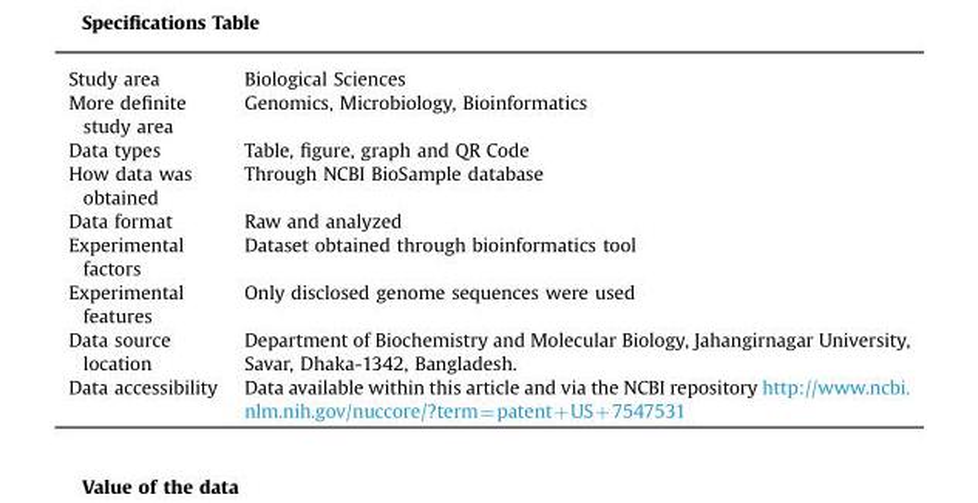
<table><tbody><tr><td>Study area</td><td>Biological Sciences</td></tr><tr><td>More definite study area</td><td>Genomics, Microbiology, Bioinformatics</td></tr><tr><td>Data types</td><td>Table, figure, graph and QR Code</td></tr><tr><td>How data was obtained</td><td>Through NCBI BioSample database</td></tr><tr><td>Data format</td><td>Raw and analyzed</td></tr><tr><td>Experimental factors</td><td>Dataset obtained through bioinformatics tool</td></tr><tr><td>Experimental features</td><td>Only disclosed genome sequences were used</td></tr><tr><td>Data source location</td><td>Department of Biochemistry and Molecular Biology, Jahangirnagar University, Savar, Dhaka-1342, Bangladesh.</td></tr><tr><td>Data accessibility</td><td>Data available within this article and via the NCBI repository http://www.ncbi. nlm.nih.gov/nuccore/?term=patent+US+7547531</td></tr></tbody></table>